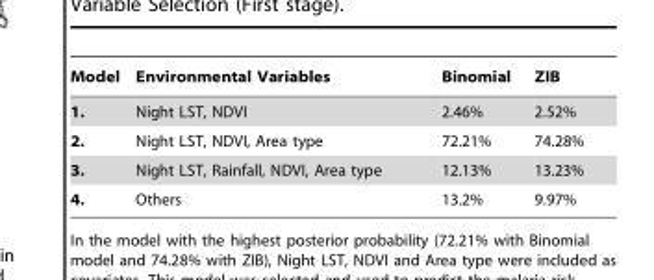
<table><thead><tr><td>Model</td><td>Environmental Variables</td><td>Binomial</td><td>ZIB</td></tr></thead><tbody><tr><td>1.</td><td>Night LST, NDVI</td><td>2.46%</td><td>2.52%</td></tr><tr><td>2.</td><td>Night LST, NDVI, Area type</td><td>72.21%</td><td>74.28%</td></tr><tr><td>3.</td><td>Night LST, Rainfall, NDVI, Area type</td><td>12.13%</td><td>13.23%</td></tr><tr><td>4.</td><td>Others</td><td>13.2%</td><td>9.97%</td></tr></tbody></table>